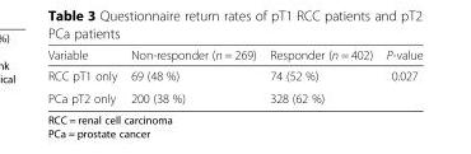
<table><thead><tr><td>Variable</td><td>Non-responder (n = 269)</td><td>Responder (n = 402)</td><td>P-value</td></tr></thead><tbody><tr><td>RCC pT1 only</td><td>69 (48 %)</td><td>74 (52 %)</td><td>0.027</td></tr><tr><td>PCa pT2 only</td><td>200 (38 %)</td><td>328 (62 %)</td><td></td></tr></tbody></table>